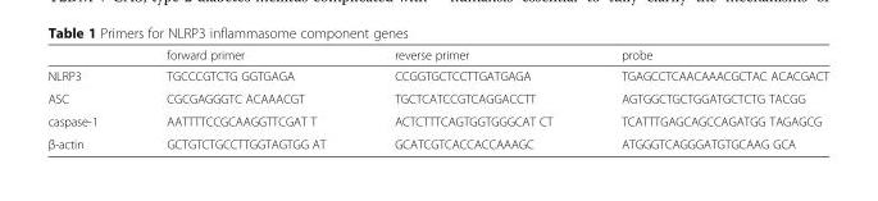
<table><thead><tr><td></td><td>forward primer</td><td>reverse primer</td><td>probe</td></tr></thead><tbody><tr><td>NLRP3</td><td>TGCCCGTCTG GGTGAGA</td><td>CCGGTGCTCCTTGATGAGA</td><td>TGAGCCTCAACAAACGCTAC ACACGACT</td></tr><tr><td>ASC</td><td>CGCGAGGGTC ACAAACGT</td><td>TGCTCATCCGTCAGGACCTT</td><td>AGTGGCTGCTGGATGCTCTG TACGG</td></tr><tr><td>caspase-1</td><td>AATTTTCCGCAAGGTTCGAT T</td><td>ACTCTTTCAGTGGTGGGCAT CT</td><td>TCATTTGAGCAGCCAGATGG TAGAGCG</td></tr><tr><td>β-actin</td><td>GCTGTCTGCCTTGGTAGTGG AT</td><td>GCATCGTCACCACCAAAGC</td><td>ATGGGTCAGGGATGTGCAAG GCA</td></tr></tbody></table>